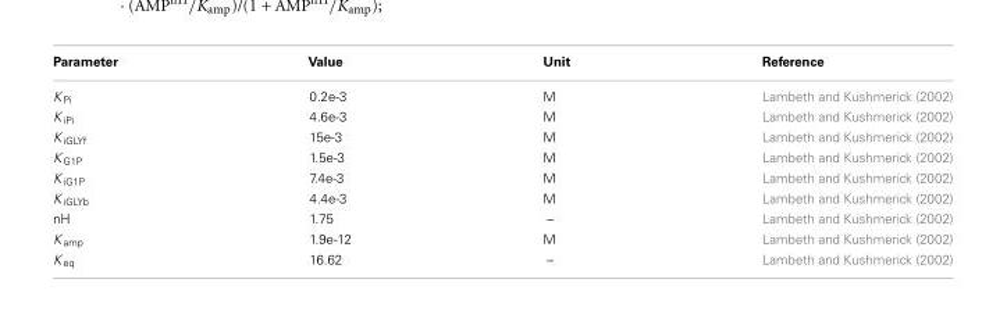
<table><thead><tr><td>Parameter</td><td>Value</td><td>Unit</td><td>Reference</td></tr></thead><tbody><tr><td>K <sub>Pi</sub></td><td>0.2e-3</td><td>M</td><td>Lambeth and Kushmerick (2002)</td></tr><tr><td>K <sub>iPi</sub></td><td>4.6e-3</td><td>M</td><td>Lambeth and Kushmerick (2002)</td></tr><tr><td>K <sub>iGLYf</sub></td><td>15e-3</td><td>M</td><td>Lambeth and Kushmerick (2002)</td></tr><tr><td>K <sub>G1P</sub></td><td>1.5e-3</td><td>M</td><td>Lambeth and Kushmerick (2002)</td></tr><tr><td>K <sub>iG1P</sub></td><td>7.4e-3</td><td>M</td><td>Lambeth and Kushmerick (2002)</td></tr><tr><td>K <sub>iGLYb</sub></td><td>4.4e-3</td><td>M</td><td>Lambeth and Kushmerick (2002)</td></tr><tr><td>nH</td><td>1.75</td><td>–</td><td>Lambeth and Kushmerick (2002)</td></tr><tr><td>K <sub>amp</sub></td><td>1.9e-12</td><td>M</td><td>Lambeth and Kushmerick (2002)</td></tr><tr><td>K <sub>eq</sub></td><td>16.62</td><td>–</td><td>Lambeth and Kushmerick (2002)</td></tr></tbody></table>